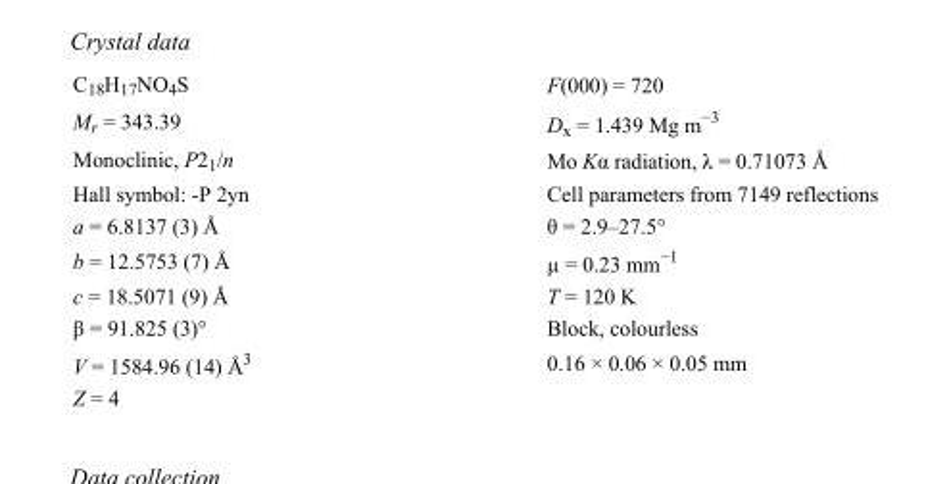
<table><tbody><tr><td>C<sub>18</sub>H<sub>17</sub>NO<sub>4</sub>S</td><td>F(000) = 720</td></tr><tr><td>M<sub>r</sub> = 343.39</td><td>D<sub>x</sub> = 1.439 Mg m<sup>−3</sup></td></tr><tr><td>Monoclinic, P2<sub>1</sub>/n</td><td>Mo Kα radiation, λ = 0.71073 Å</td></tr><tr><td>Hall symbol: -P 2yn</td><td>Cell parameters from 7149 reflections</td></tr><tr><td>a = 6.8137 (3) Å</td><td>θ = 2.9–27.5°</td></tr><tr><td>b = 12.5753 (7) Å</td><td>µ = 0.23 mm<sup>−1</sup></td></tr><tr><td>c = 18.5071 (9) Å</td><td>T = 120 K</td></tr><tr><td>β = 91.825 (3)°</td><td>Block, colourless</td></tr><tr><td>V = 1584.96 (14) Å<sup>3</sup></td><td>0.16 × 0.06 × 0.05 mm</td></tr><tr><td>Z = 4</td><td></td></tr></tbody></table>